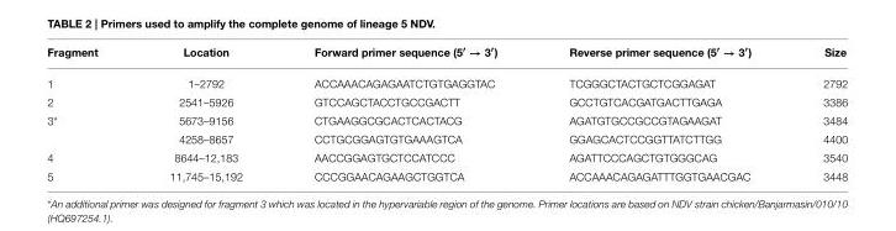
<table><thead><tr><td>Fragment</td><td>Location</td><td>Forward primer sequence (5′ → 3′)</td><td>Reverse primer sequence (5′ → 3′)</td><td>Size</td></tr></thead><tbody><tr><td>1</td><td>1–2792</td><td>ACCAAACAGAGAATCTGTGAGGTAC</td><td>TCGGGCTACTGCTCGGAGAT</td><td>2792</td></tr><tr><td>2</td><td>2541–5926</td><td>GTCCAGCTACCTGCCGACTT</td><td>GCCTGTCACGATGACTTGAGA</td><td>3386</td></tr><tr><td rowspan="2">3*</td><td>5673–9156</td><td>CTGAAGGCGCACTCACTACG</td><td>AGATGTGCCGCCGTAGAAGAT</td><td>3484</td></tr><tr><td>4258–8657</td><td>CCTGCGGAGTGTGAAAGTCA</td><td>GGAGCACTCCGGTTATCTTGG</td><td>4400</td></tr><tr><td>4</td><td>8644–12,183</td><td>AACCGGAGTGCTCCATCCC</td><td>AGATTCCCAGCTGTGGGCAG</td><td>3540</td></tr><tr><td>5</td><td>11,745–15,192</td><td>CCCGGAACAGAAGCTGGTCA</td><td>ACCAAACAGAGATTTGGTGAACGAC</td><td>3448</td></tr></tbody></table>